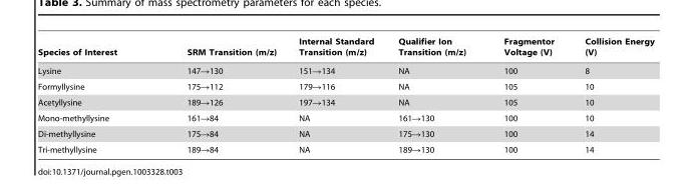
<table><thead><tr><td>Species of Interest</td><td>SRM Transition (m/z)</td><td>Internal Standard Transition (m/z)</td><td>Qualifier Ion Transition (m/z)</td><td>Fragmentor Voltage (V)</td><td>Collision Energy (V)</td></tr></thead><tbody><tr><td>Lysine</td><td>147→130</td><td>151→134</td><td>NA</td><td>100</td><td>8</td></tr><tr><td>Formyllysine</td><td>175→112</td><td>179→116</td><td>NA</td><td>105</td><td>10</td></tr><tr><td>Acetyllysine</td><td>189→126</td><td>197→134</td><td>NA</td><td>105</td><td>10</td></tr><tr><td>Mono-methyllysine</td><td>161→84</td><td>NA</td><td>161→130</td><td>100</td><td>10</td></tr><tr><td>Di-methyllysine</td><td>175→84</td><td>NA</td><td>175→130</td><td>100</td><td>14</td></tr><tr><td>Tri-methyllysine</td><td>189→84</td><td>NA</td><td>189→130</td><td>100</td><td>14</td></tr></tbody></table>